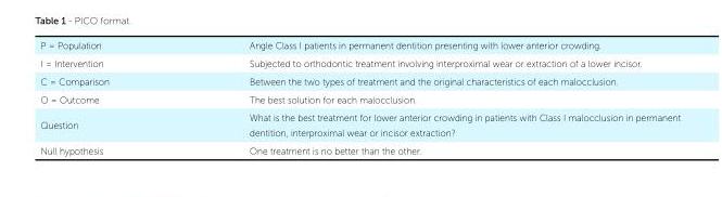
<table><tbody><tr><td>P = Population</td><td>Angle Class I patients in permanent dentition presenting with lower anterior crowding.</td></tr><tr><td>I = Intervention</td><td>Subjected to orthodontic treatment involving interproximal wear or extraction of a lower incisor.</td></tr><tr><td>C = Comparison</td><td>Between the two types of treatment and the original characteristics of each malocclusion.</td></tr><tr><td>O = Outcome</td><td>The best solution for each malocclusion.</td></tr><tr><td>Question</td><td>What is the best treatment for lower anterior crowding in patients with Class I malocclusion in permanent dentition, interproximal wear or incisor extraction?</td></tr><tr><td>Null hypothesis</td><td>One treatment is no better than the other.</td></tr></tbody></table>